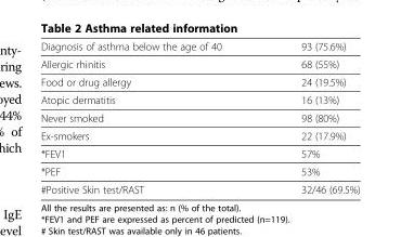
<table><tbody><tr><td>Diagnosis of asthma below the age of 40</td><td>93 (75.6%)</td></tr><tr><td>Allergic rhinitis</td><td>68 (55%)</td></tr><tr><td>Food or drug allergy</td><td>24 (19.5%)</td></tr><tr><td>Atopic dermatitis</td><td>16 (13%)</td></tr><tr><td>Never smoked</td><td>98 (80%)</td></tr><tr><td>Ex-smokers</td><td>22 (17.9%)</td></tr><tr><td>*FEV1</td><td>57%</td></tr><tr><td>*PEF</td><td>53%</td></tr><tr><td>#Positive Skin test/RAST</td><td>32/46 (69.5%)</td></tr></tbody></table>